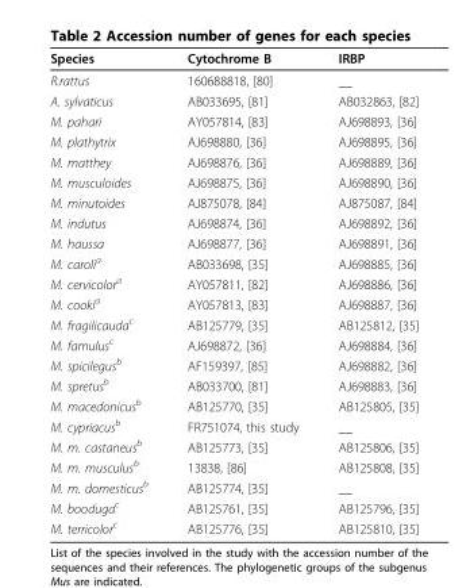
<table><thead><tr><td>Species</td><td>Cytochrome B</td><td>IRBP</td></tr></thead><tbody><tr><td>R.rattus</td><td>160688818, [80]</td><td>__</td></tr><tr><td>A. sylvaticus</td><td>AB033695, [81]</td><td>AB032863, [82]</td></tr><tr><td>M. pahari</td><td>AY057814, [83]</td><td>AJ698893, [36]</td></tr><tr><td>M. plathytrix</td><td>AJ698880, [36]</td><td>AJ698895, [36]</td></tr><tr><td>M. matthey</td><td>AJ698876, [36]</td><td>AJ698889, [36]</td></tr><tr><td>M. musculoides</td><td>AJ698875, [36]</td><td>AJ698890, [36]</td></tr><tr><td>M. minutoides</td><td>AJ875078, [84]</td><td>AJ875087, [84]</td></tr><tr><td>M. indutus</td><td>AJ698874, [36]</td><td>AJ698892, [36]</td></tr><tr><td>M. haussa</td><td>AJ698877, [36]</td><td>AJ698891, [36]</td></tr><tr><td>M. caroli<sup>a</sup></td><td>AB033698, [35]</td><td>AJ698885, [36]</td></tr><tr><td>M. cervicolor<sup>a</sup></td><td>AY057811, [82]</td><td>AJ698886, [36]</td></tr><tr><td>M. cooki<sup>a</sup></td><td>AY057813, [83]</td><td>AJ698887, [36]</td></tr><tr><td>M. fragilicauda<sup>c</sup></td><td>AB125779, [35]</td><td>AB125812, [35]</td></tr><tr><td>M. famulus<sup>c</sup></td><td>AJ698872, [36]</td><td>AJ698884, [36]</td></tr><tr><td>M. spicilegus<sup>b</sup></td><td>AF159397, [85]</td><td>AJ698882, [36]</td></tr><tr><td>M. spretus<sup>b</sup></td><td>AB033700, [81]</td><td>AJ698883, [36]</td></tr><tr><td>M. macedonicus<sup>b</sup></td><td>AB125770, [35]</td><td>AB125805, [35]</td></tr><tr><td>M. cypriacus<sup>b</sup></td><td>FR751074, this study</td><td>__</td></tr><tr><td>M. m. castaneus<sup>b</sup></td><td>AB125773, [35]</td><td>AB125806, [35]</td></tr><tr><td>M. m. musculus<sup>b</sup></td><td>13838, [86]</td><td>AB125808, [35]</td></tr><tr><td>M. m. domesticus<sup>b</sup></td><td>AB125774, [35]</td><td>__</td></tr><tr><td>M. booduga<sup>c</sup></td><td>AB125761, [35]</td><td>AB125796, [35]</td></tr><tr><td>M. terricolor<sup>c</sup></td><td>AB125776, [35]</td><td>AB125810, [35]</td></tr></tbody></table>